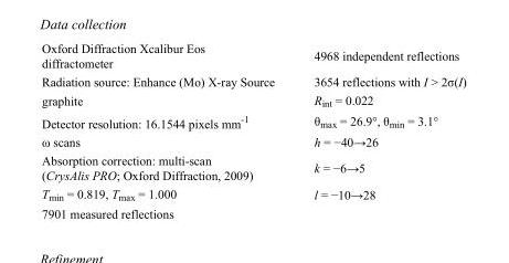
<table><tbody><tr><td>Oxford Diffraction Xcalibur Eos diffractometer</td><td>4968 independent reflections</td></tr><tr><td>Radiation source: Enhance (Mo) X-ray Source</td><td>3654 reflections with I &gt; 2σ(I)</td></tr><tr><td>graphite</td><td>R<sub>int</sub> = 0.022</td></tr><tr><td>Detector resolution: 16.1544 pixels mm<sup>-1</sup></td><td>θ<sub>max</sub> = 26.9°, θ<sub>min</sub> = 3.1°</td></tr><tr><td>ω scans</td><td>h = −40→26</td></tr><tr><td>Absorption correction: multi-scan (CrysAlis PRO; Oxford Diffraction, 2009)</td><td>k = −6→5</td></tr><tr><td>T<sub>min</sub> = 0.819, T<sub>max</sub> = 1.000</td><td>l = −10→28</td></tr><tr><td>7901 measured reflections</td><td></td></tr></tbody></table>